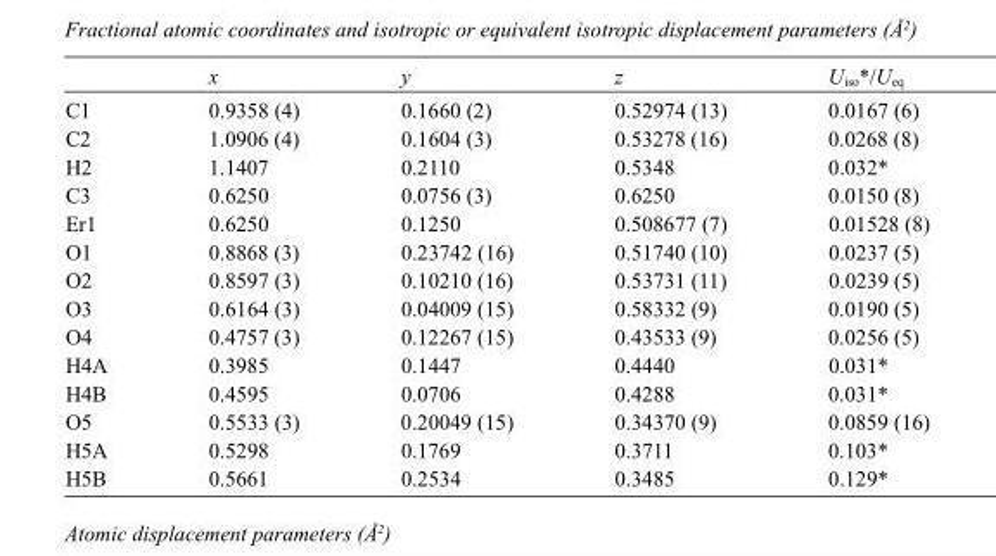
<table><thead><tr><td></td><td>x</td><td>y</td><td>z</td><td>U<sub>iso</sub>*/U<sub>eq</sub></td></tr></thead><tbody><tr><td>C1</td><td>0.9358 (4)</td><td>0.1660 (2)</td><td>0.52974 (13)</td><td>0.0167 (6)</td></tr><tr><td>C2</td><td>1.0906 (4)</td><td>0.1604 (3)</td><td>0.53278 (16)</td><td>0.0268 (8)</td></tr><tr><td>H2</td><td>1.1407</td><td>0.2110</td><td>0.5348</td><td>0.032*</td></tr><tr><td>C3</td><td>0.6250</td><td>0.0756 (3)</td><td>0.6250</td><td>0.0150 (8)</td></tr><tr><td>Er1</td><td>0.6250</td><td>0.1250</td><td>0.508677 (7)</td><td>0.01528 (8)</td></tr><tr><td>O1</td><td>0.8868 (3)</td><td>0.23742 (16)</td><td>0.51740 (10)</td><td>0.0237 (5)</td></tr><tr><td>O2</td><td>0.8597 (3)</td><td>0.10210 (16)</td><td>0.53731 (11)</td><td>0.0239 (5)</td></tr><tr><td>O3</td><td>0.6164 (3)</td><td>0.04009 (15)</td><td>0.58332 (9)</td><td>0.0190 (5)</td></tr><tr><td>O4</td><td>0.4757 (3)</td><td>0.12267 (15)</td><td>0.43533 (9)</td><td>0.0256 (5)</td></tr><tr><td>H4A</td><td>0.3985</td><td>0.1447</td><td>0.4440</td><td>0.031*</td></tr><tr><td>H4B</td><td>0.4595</td><td>0.0706</td><td>0.4288</td><td>0.031*</td></tr><tr><td>O5</td><td>0.5533 (3)</td><td>0.20049 (15)</td><td>0.34370 (9)</td><td>0.0859 (16)</td></tr><tr><td>H5A</td><td>0.5298</td><td>0.1769</td><td>0.3711</td><td>0.103*</td></tr><tr><td>H5B</td><td>0.5661</td><td>0.2534</td><td>0.3485</td><td>0.129*</td></tr></tbody></table>